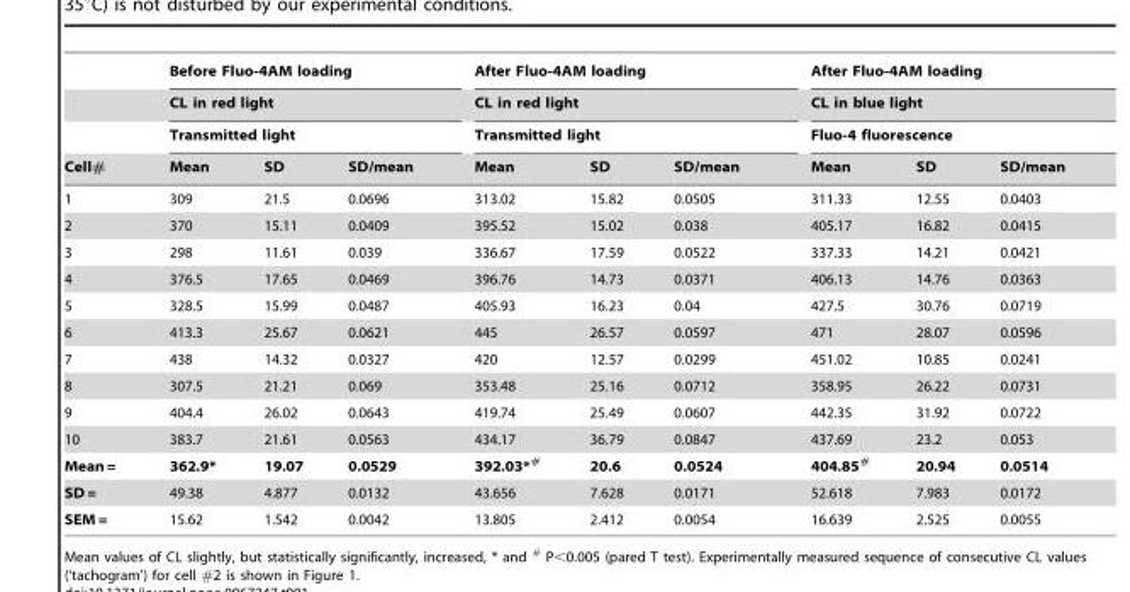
<table><thead><tr><td rowspan="4">Cell#</td><td rowspan="3" colspan="3">Before Fluo-4AM loading CL in red light Transmitted light</td><td rowspan="3" colspan="3">After Fluo-4AM loading CL in red light Transmitted light</td><td rowspan="3" colspan="3">After Fluo-4AM loading CL in blue light Fluo-4 fluorescence</td></tr><tr></tr><tr></tr><tr><td>Mean</td><td>SD</td><td>SD/mean</td><td>Mean</td><td>SD</td><td>SD/mean</td><td>Mean</td><td>SD</td><td>SD/mean</td></tr></thead><tbody><tr><td>1</td><td>309</td><td>21.5</td><td>0.0696</td><td>313.02</td><td>15.82</td><td>0.0505</td><td>311.33</td><td>12.55</td><td>0.0403</td></tr><tr><td>2</td><td>370</td><td>15.11</td><td>0.0409</td><td>395.52</td><td>15.02</td><td>0.038</td><td>405.17</td><td>16.82</td><td>0.0415</td></tr><tr><td>3</td><td>298</td><td>11.61</td><td>0.039</td><td>336.67</td><td>17.59</td><td>0.0522</td><td>337.33</td><td>14.21</td><td>0.0421</td></tr><tr><td>4</td><td>376.5</td><td>17.65</td><td>0.0469</td><td>396.76</td><td>14.73</td><td>0.0371</td><td>406.13</td><td>14.76</td><td>0.0363</td></tr><tr><td>5</td><td>328.5</td><td>15.99</td><td>0.0487</td><td>405.93</td><td>16.23</td><td>0.04</td><td>427.5</td><td>30.76</td><td>0.0719</td></tr><tr><td>6</td><td>413.3</td><td>25.67</td><td>0.0621</td><td>445</td><td>26.57</td><td>0.0597</td><td>471</td><td>28.07</td><td>0.0596</td></tr><tr><td>7</td><td>438</td><td>14.32</td><td>0.0327</td><td>420</td><td>12.57</td><td>0.0299</td><td>451.02</td><td>10.85</td><td>0.0241</td></tr><tr><td>8</td><td>307.5</td><td>21.21</td><td>0.069</td><td>353.48</td><td>25.16</td><td>0.0712</td><td>358.95</td><td>26.22</td><td>0.0731</td></tr><tr><td>9</td><td>404.4</td><td>26.02</td><td>0.0643</td><td>419.74</td><td>25.49</td><td>0.0607</td><td>442.35</td><td>31.92</td><td>0.0722</td></tr><tr><td>10</td><td>383.7</td><td>21.61</td><td>0.0563</td><td>434.17</td><td>36.79</td><td>0.0847</td><td>437.69</td><td>23.2</td><td>0.053</td></tr><tr><td>Mean =</td><td>362.9*</td><td>19.07</td><td>0.0529</td><td>392.03*<sup>#</sup></td><td>20.6</td><td>0.0524</td><td>404.85<sup>#</sup></td><td>20.94</td><td>0.0514</td></tr><tr><td>SD =</td><td>49.38</td><td>4.877</td><td>0.0132</td><td>43.656</td><td>7.628</td><td>0.0171</td><td>52.618</td><td>7.983</td><td>0.0172</td></tr><tr><td>SEM =</td><td>15.62</td><td>1.542</td><td>0.0042</td><td>13.805</td><td>2.412</td><td>0.0054</td><td>16.639</td><td>2.525</td><td>0.0055</td></tr></tbody></table>